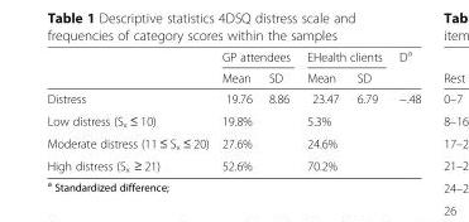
<table><thead><tr><td rowspan="2"></td><td colspan="2">GP attendees</td><td colspan="2">EHealth clients</td><td rowspan="2">D<sup>a</sup></td></tr><tr><td>Mean</td><td>SD</td><td>Mean</td><td>SD</td></tr></thead><tbody><tr><td>Distress</td><td>19.76</td><td>8.86</td><td>23.47</td><td>6.79</td><td>−.48</td></tr><tr><td>Low distress (S<sub>x</sub> ≤ 10)</td><td colspan="2">19.8%</td><td colspan="2">5.3%</td><td></td></tr><tr><td>Moderate distress (11 ≤ S<sub>x</sub> ≤ 20)</td><td colspan="2">27.6%</td><td colspan="2">24.6%</td><td></td></tr><tr><td>High distress (S<sub>x</sub> ≥ 21)</td><td colspan="2">52.6%</td><td colspan="2">70.2%</td><td></td></tr></tbody></table>